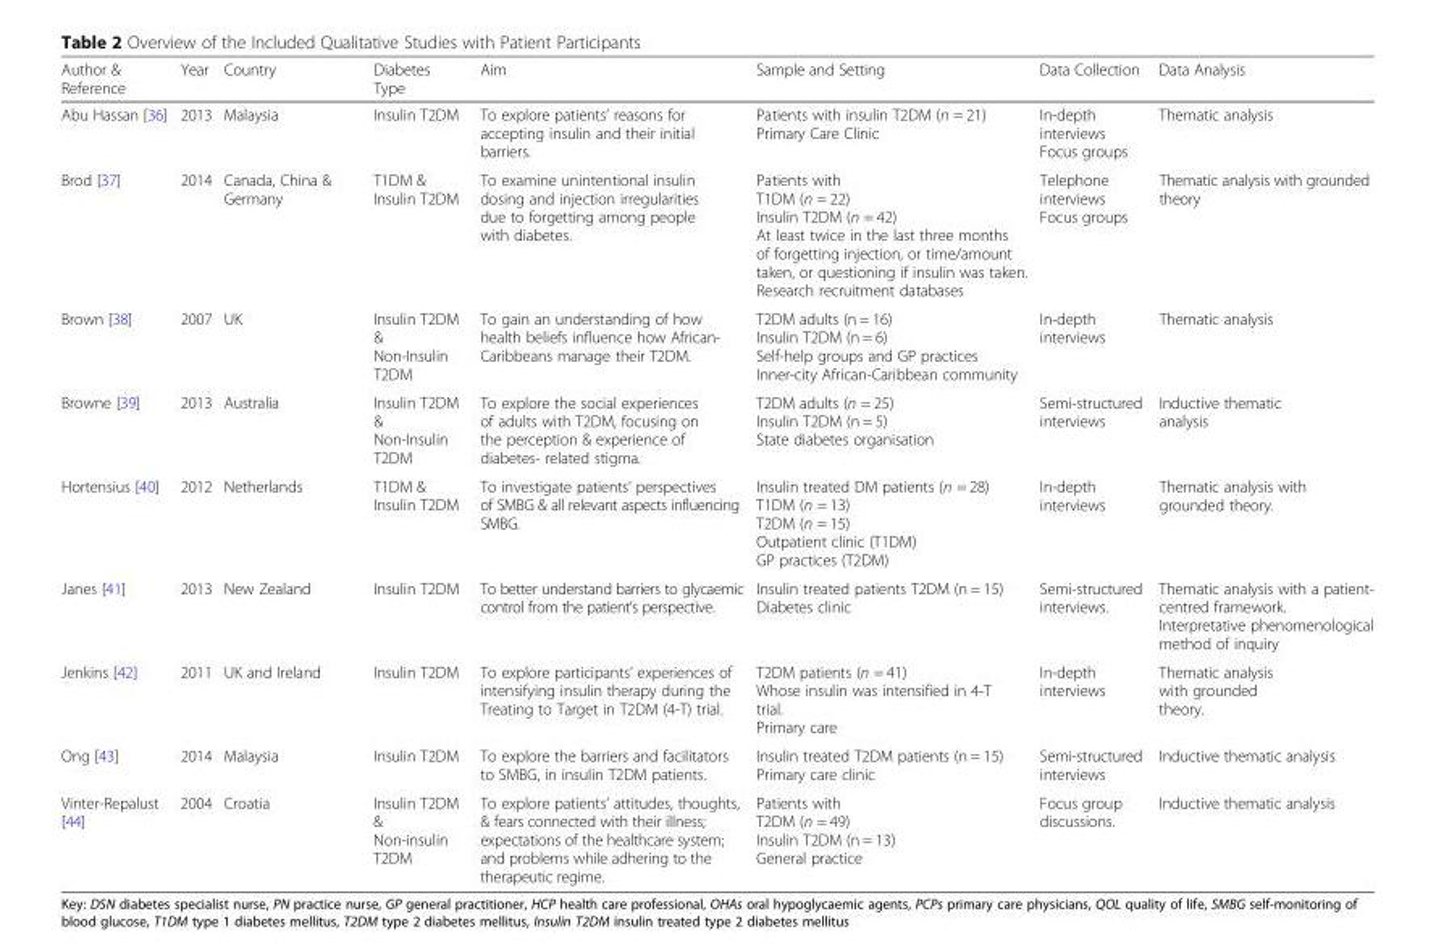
<table><thead><tr><td>Author &amp; Reference</td><td>Year</td><td>Country</td><td>Diabetes Type</td><td>Aim</td><td>Sample and Setting</td><td>Data Collection</td><td>Data Analysis</td></tr></thead><tbody><tr><td>Abu Hassan [36]</td><td>2013</td><td>Malaysia</td><td>Insulin T2DM</td><td>To explore patients’ reasons for accepting insulin and their initial barriers.</td><td>Patients with insulin T2DM (n = 21) Primary Care Clinic</td><td>In-depth interviews Focus groups</td><td>Thematic analysis</td></tr><tr><td>Brod [37]</td><td>2014</td><td>Canada, China &amp; Germany</td><td>T1DM &amp; Insulin T2DM</td><td>To examine unintentional insulin dosing and injection irregularities due to forgetting among people with diabetes.</td><td>Patients with T1DM (n = 22) Insulin T2DM (n = 42) At least twice in the last three months of forgetting injection, or time/amount taken, or questioning if insulin was taken. Research recruitment databases</td><td>Telephone interviews Focus groups</td><td>Thematic analysis with grounded theory</td></tr><tr><td>Brown [38]</td><td>2007</td><td>UK</td><td>Insulin T2DM &amp; Non-Insulin T2DM</td><td>To gain an understanding of how health beliefs influence how African- Caribbeans manage their T2DM.</td><td>T2DM adults (n = 16) Insulin T2DM (n = 6) Self-help groups and GP practices Inner-city African-Caribbean community</td><td>In-depth interviews</td><td>Thematic analysis</td></tr><tr><td>Browne [39]</td><td>2013</td><td>Australia</td><td>Insulin T2DM &amp; Non-Insulin T2DM</td><td>To explore the social experiences of adults with T2DM, focusing on the perception &amp; experience of diabetes- related stigma.</td><td>T2DM adults (n = 25) Insulin T2DM (n = 5) State diabetes organisation</td><td>Semi-structured interviews</td><td>Inductive thematic analysis</td></tr><tr><td>Hortensius [40]</td><td>2012</td><td>Netherlands</td><td>T1DM &amp; Insulin T2DM</td><td>To investigate patients’ perspectives of SMBG &amp; all relevant aspects influencing SMBG.</td><td>Insulin treated DM patients (n = 28) T1DM (n = 13) T2DM (n = 15) Outpatient clinic (T1DM) GP practices (T2DM)</td><td>In-depth interviews</td><td>Thematic analysis with grounded theory.</td></tr><tr><td>Janes [41]</td><td>2013</td><td>New Zealand</td><td>Insulin T2DM</td><td>To better understand barriers to glycaemic control from the patient’s perspective.</td><td>Insulin treated patients T2DM (n = 15) Diabetes clinic</td><td>Semi-structured interviews.</td><td>Thematic analysis with a patient- centred framework. Interpretative phenomenological method of inquiry</td></tr><tr><td>Jenkins [42]</td><td>2011</td><td>UK and Ireland</td><td>Insulin T2DM</td><td>To explore participants’ experiences of intensifying insulin therapy during the Treating to Target in T2DM (4-T) trial.</td><td>T2DM patients (n = 41) Whose insulin was intensified in 4-T trial. Primary care</td><td>In-depth interviews</td><td>Thematic analysis with grounded theory.</td></tr><tr><td>Ong [43]</td><td>2014</td><td>Malaysia</td><td>Insulin T2DM</td><td>To explore the barriers and facilitators to SMBG, in insulin T2DM patients.</td><td>Insulin treated T2DM patients (n = 15) Primary care clinic</td><td>Semi-structured interviews</td><td>Inductive thematic analysis</td></tr><tr><td>Vinter-Repalust [44]</td><td>2004</td><td>Croatia</td><td>Insulin T2DM &amp; Non-insulin T2DM</td><td>To explore patients’ attitudes, thoughts, &amp; fears connected with their illness; expectations of the healthcare system; and problems while adhering to the therapeutic regime.</td><td>Patients with T2DM (n = 49) Insulin T2DM (n = 13) General practice</td><td>Focus group discussions.</td><td>Inductive thematic analysis</td></tr></tbody></table>